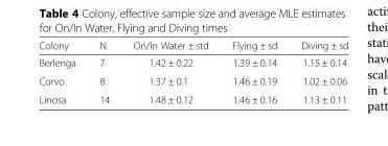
<table><thead><tr><td>Colony</td><td>N</td><td>On/In Water ± std</td><td>Flying ± sd</td><td>Diving ± sd</td></tr></thead><tbody><tr><td>Berlenga</td><td>7</td><td>1.42 ± 0.22</td><td>1.39 ± 0.14</td><td>1.15 ± 0.14</td></tr><tr><td>Corvo</td><td>8</td><td>1.37 ± 0.1</td><td>1.46 ± 0.19</td><td>1.02 ± 0.06</td></tr><tr><td>Linosa</td><td>14</td><td>1.48 ± 0.12</td><td>1.46 ± 0.16</td><td>1.13 ± 0.11</td></tr></tbody></table>